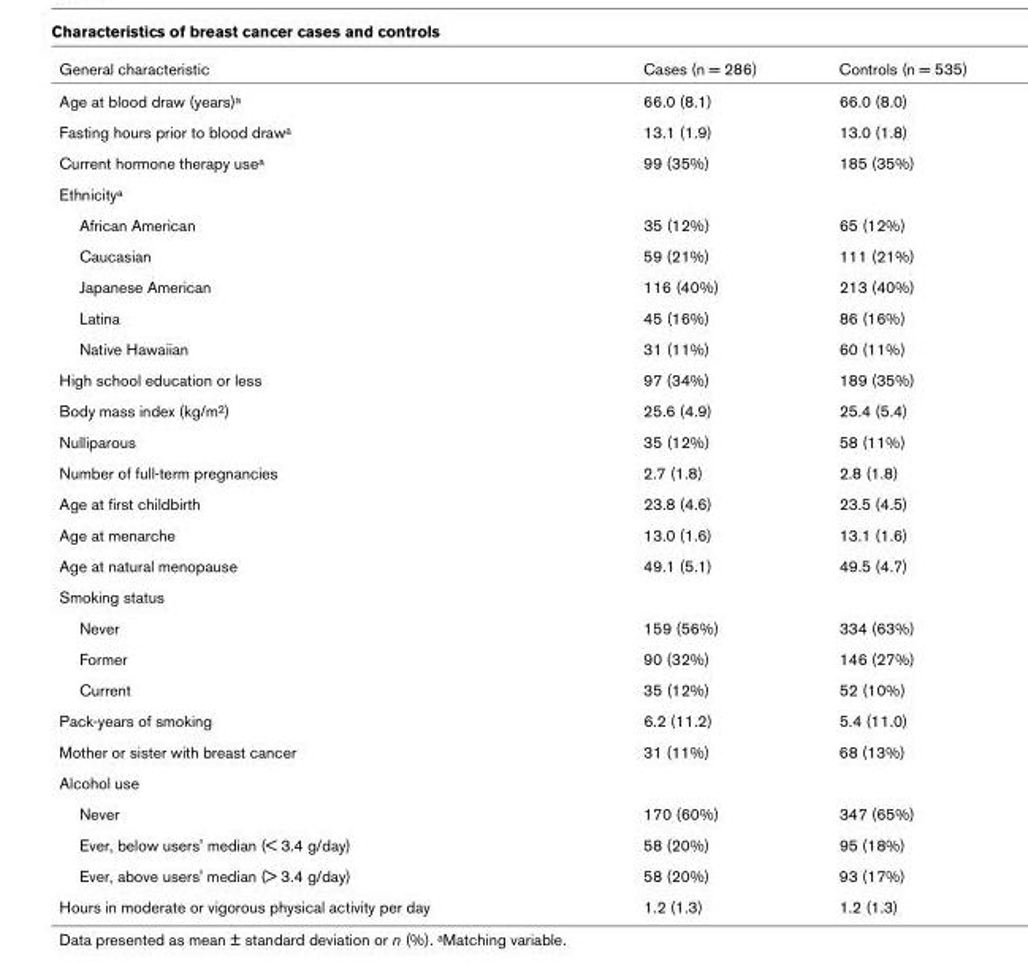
<table><thead><tr><td>General characteristic</td><td>Cases (n = 286)</td><td>Controls (n = 535)</td></tr></thead><tbody><tr><td>Age at blood draw (years)<sup>a</sup></td><td>66.0 (8.1)</td><td>66.0 (8.0)</td></tr><tr><td>Fasting hours prior to blood draw<sup>a</sup></td><td>13.1 (1.9)</td><td>13.0 (1.8)</td></tr><tr><td>Current hormone therapy use<sup>a</sup></td><td>99 (35%)</td><td>185 (35%)</td></tr><tr><td colspan="3">Ethnicity<sup>a</sup></td></tr><tr><td>African American</td><td>35 (12%)</td><td>65 (12%)</td></tr><tr><td>Caucasian</td><td>59 (21%)</td><td>111 (21%)</td></tr><tr><td>Japanese American</td><td>116 (40%)</td><td>213 (40%)</td></tr><tr><td>Latina</td><td>45 (16%)</td><td>86 (16%)</td></tr><tr><td>Native Hawaiian</td><td>31 (11%)</td><td>60 (11%)</td></tr><tr><td>High school education or less</td><td>97 (34%)</td><td>189 (35%)</td></tr><tr><td>Body mass index (kg/m<sup>2</sup>)</td><td>25.6 (4.9)</td><td>25.4 (5.4)</td></tr><tr><td>Nulliparous</td><td>35 (12%)</td><td>58 (11%)</td></tr><tr><td>Number of full-term pregnancies</td><td>2.7 (1.8)</td><td>2.8 (1.8)</td></tr><tr><td>Age at first childbirth</td><td>23.8 (4.6)</td><td>23.5 (4.5)</td></tr><tr><td>Age at menarche</td><td>13.0 (1.6)</td><td>13.1 (1.6)</td></tr><tr><td>Age at natural menopause</td><td>49.1 (5.1)</td><td>49.5 (4.7)</td></tr><tr><td colspan="3">Smoking status</td></tr><tr><td>Never</td><td>159 (56%)</td><td>334 (63%)</td></tr><tr><td>Former</td><td>90 (32%)</td><td>146 (27%)</td></tr><tr><td>Current</td><td>35 (12%)</td><td>52 (10%)</td></tr><tr><td>Pack-years of smoking</td><td>6.2 (11.2)</td><td>5.4 (11.0)</td></tr><tr><td>Mother or sister with breast cancer</td><td>31 (11%)</td><td>68 (13%)</td></tr><tr><td colspan="3">Alcohol use</td></tr><tr><td>Never</td><td>170 (60%)</td><td>347 (65%)</td></tr><tr><td>Ever, below users&#x27; median (&lt; 3.4 g/day)</td><td>58 (20%)</td><td>95 (18%)</td></tr><tr><td>Ever, above users&#x27; median (&gt; 3.4 g/day)</td><td>58 (20%)</td><td>93 (17%)</td></tr><tr><td>Hours in moderate or vigorous physical activity per day</td><td>1.2 (1.3)</td><td>1.2 (1.3)</td></tr></tbody></table>